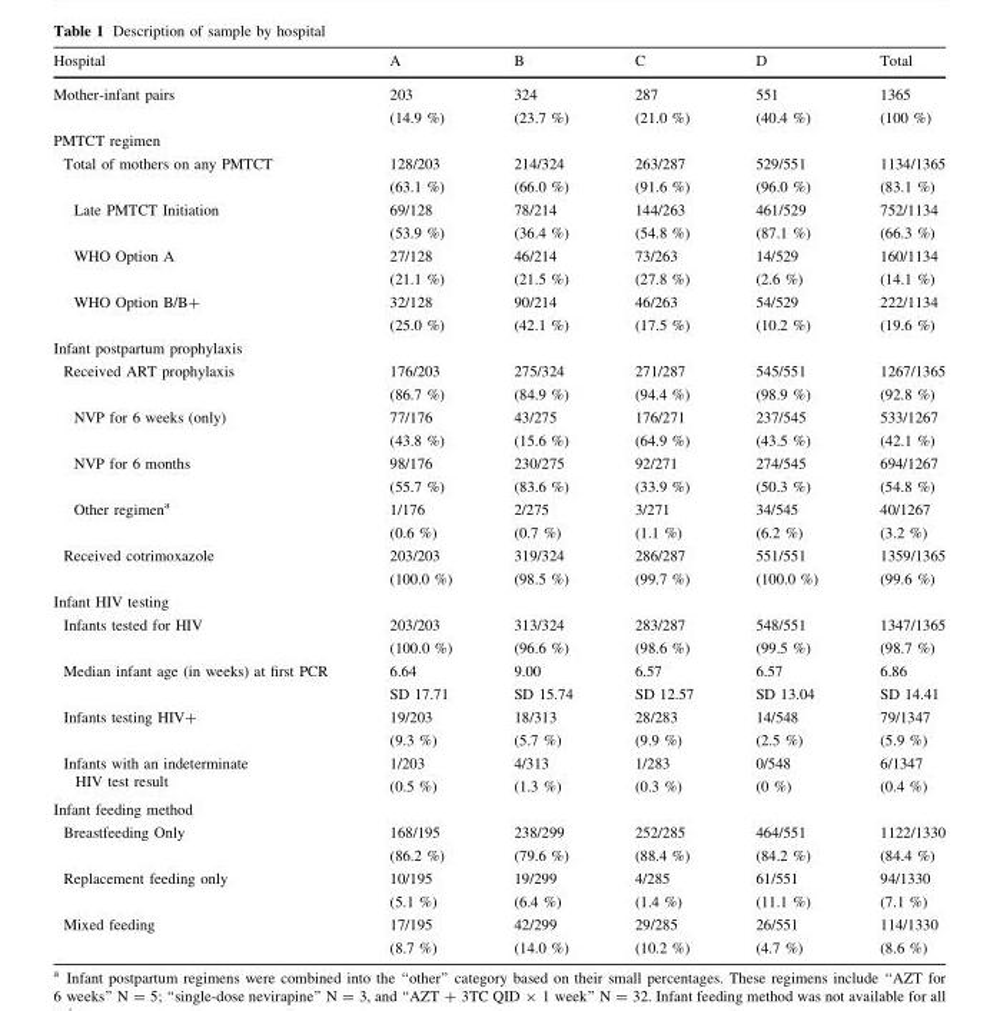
<table><thead><tr><td>Hospital</td><td>A</td><td>B</td><td>C</td><td>D</td><td>Total</td></tr></thead><tbody><tr><td>Mother-infant pairs</td><td>203 (14.9 %)</td><td>324 (23.7 %)</td><td>287 (21.0 %)</td><td>551 (40.4 %)</td><td>1365 (100 %)</td></tr><tr><td colspan="6">PMTCT regimen</td></tr><tr><td>Total of mothers on any PMTCT</td><td>128/203 (63.1 %)</td><td>214/324 (66.0 %)</td><td>263/287 (91.6 %)</td><td>529/551 (96.0 %)</td><td>1134/1365 (83.1 %)</td></tr><tr><td>Late PMTCT Initiation</td><td>69/128 (53.9 %)</td><td>78/214 (36.4 %)</td><td>144/263 (54.8 %)</td><td>461/529 (87.1 %)</td><td>752/1134 (66.3 %)</td></tr><tr><td>WHO Option A</td><td>27/128 (21.1 %)</td><td>46/214 (21.5 %)</td><td>73/263 (27.8 %)</td><td>14/529 (2.6 %)</td><td>160/1134 (14.1 %)</td></tr><tr><td>WHO Option B/B+</td><td>32/128 (25.0 %)</td><td>90/214 (42.1 %)</td><td>46/263 (17.5 %)</td><td>54/529 (10.2 %)</td><td>222/1134 (19.6 %)</td></tr><tr><td colspan="6">Infant postpartum prophylaxis</td></tr><tr><td>Received ART prophylaxis</td><td>176/203 (86.7 %)</td><td>275/324 (84.9 %)</td><td>271/287 (94.4 %)</td><td>545/551 (98.9 %)</td><td>1267/1365 (92.8 %)</td></tr><tr><td>NVP for 6 weeks (only)</td><td>77/176 (43.8 %)</td><td>43/275 (15.6 %)</td><td>176/271 (64.9 %)</td><td>237/545 (43.5 %)</td><td>533/1267 (42.1 %)</td></tr><tr><td>NVP for 6 months</td><td>98/176 (55.7 %)</td><td>230/275 (83.6 %)</td><td>92/271 (33.9 %)</td><td>274/545 (50.3 %)</td><td>694/1267 (54.8 %)</td></tr><tr><td>Other regimen<sup>a</sup></td><td>1/176 (0.6 %)</td><td>2/275 (0.7 %)</td><td>3/271 (1.1 %)</td><td>34/545 (6.2 %)</td><td>40/1267 (3.2 %)</td></tr><tr><td>Received cotrimoxazole</td><td>203/203 (100.0 %)</td><td>319/324 (98.5 %)</td><td>286/287 (99.7 %)</td><td>551/551 (100.0 %)</td><td>1359/1365 (99.6 %)</td></tr><tr><td colspan="6">Infant HIV testing</td></tr><tr><td>Infants tested for HIV</td><td>203/203 (100.0 %)</td><td>313/324 (96.6 %)</td><td>283/287 (98.6 %)</td><td>548/551 (99.5 %)</td><td>1347/1365 (98.7 %)</td></tr><tr><td>Median infant age (in weeks) at first PCR</td><td>6.64 SD 17.71</td><td>9.00 SD 15.74</td><td>6.57 SD 12.57</td><td>6.57 SD 13.04</td><td>6.86 SD 14.41</td></tr><tr><td>Infants testing HIV+</td><td>19/203 (9.3 %)</td><td>18/313 (5.7 %)</td><td>28/283 (9.9 %)</td><td>14/548 (2.5 %)</td><td>79/1347 (5.9 %)</td></tr><tr><td>Infants with an indeterminate HIV test result</td><td>1/203 (0.5 %)</td><td>4/313 (1.3 %)</td><td>1/283 (0.3 %)</td><td>0/548 (0 %)</td><td>6/1347 (0.4 %)</td></tr><tr><td colspan="6">Infant feeding method</td></tr><tr><td>Breastfeeding Only</td><td>168/195 (86.2 %)</td><td>238/299 (79.6 %)</td><td>252/285 (88.4 %)</td><td>464/551 (84.2 %)</td><td>1122/1330 (84.4 %)</td></tr><tr><td>Replacement feeding only</td><td>10/195 (5.1 %)</td><td>19/299 (6.4 %)</td><td>4/285 (1.4 %)</td><td>61/551 (11.1 %)</td><td>94/1330 (7.1 %)</td></tr><tr><td>Mixed feeding</td><td>17/195 (8.7 %)</td><td>42/299 (14.0 %)</td><td>29/285 (10.2 %)</td><td>26/551 (4.7 %)</td><td>114/1330 (8.6 %)</td></tr></tbody></table>